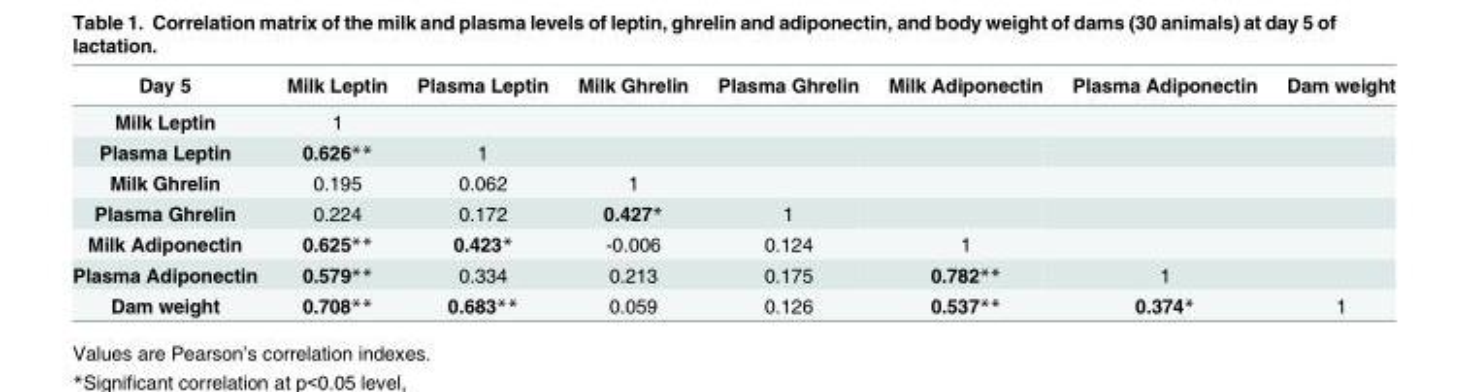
<table><thead><tr><td>Day 5</td><td>Milk Leptin</td><td>Plasma Leptin</td><td>Milk Ghrelin</td><td>Plasma Ghrelin</td><td>Milk Adiponectin</td><td>Plasma Adiponectin</td><td>Dam weight</td></tr></thead><tbody><tr><td>Milk Leptin</td><td>1</td><td></td><td></td><td></td><td></td><td></td><td></td></tr><tr><td>Plasma Leptin</td><td>0.626**</td><td>1</td><td></td><td></td><td></td><td></td><td></td></tr><tr><td>Milk Ghrelin</td><td>0.195</td><td>0.062</td><td>1</td><td></td><td></td><td></td><td></td></tr><tr><td>Plasma Ghrelin</td><td>0.224</td><td>0.172</td><td>0.427*</td><td>1</td><td></td><td></td><td></td></tr><tr><td>Milk Adiponectin</td><td>0.625**</td><td>0.423*</td><td>-0.006</td><td>0.124</td><td>1</td><td></td><td></td></tr><tr><td>Plasma Adiponectin</td><td>0.579**</td><td>0.334</td><td>0.213</td><td>0.175</td><td>0.782**</td><td>1</td><td></td></tr><tr><td>Dam weight</td><td>0.708**</td><td>0.683**</td><td>0.059</td><td>0.126</td><td>0.537**</td><td>0.374*</td><td>1</td></tr></tbody></table>